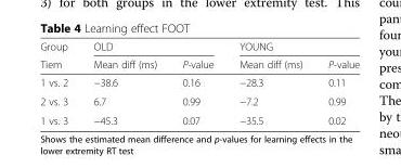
<table><thead><tr><td rowspan="2">Group Tiem</td><td colspan="2">OLD</td><td colspan="2">YOUNG</td></tr><tr><td>Mean diff (ms)</td><td>P-value</td><td>Mean diff (ms)</td><td>P-value</td></tr></thead><tbody><tr><td>1 vs. 2</td><td>−38.6</td><td>0.16</td><td>−28.3</td><td>0.11</td></tr><tr><td>2 vs. 3</td><td>6.7</td><td>0.99</td><td>−7.2</td><td>0.99</td></tr><tr><td>1 vs. 3</td><td>−45.3</td><td>0.07</td><td>−35.5</td><td>0.02</td></tr></tbody></table>